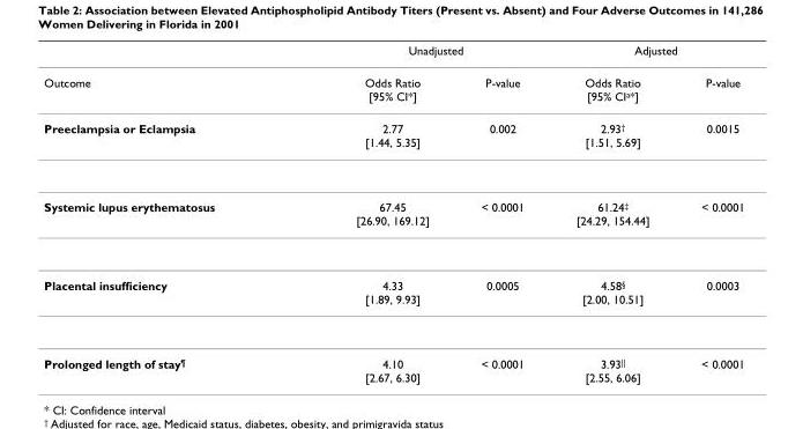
<table><thead><tr><td rowspan="2">Outcome</td><td colspan="2">Unadjusted</td><td colspan="2">Adjusted</td></tr><tr><td>Odds Ratio [95% CI*]</td><td>P-value</td><td>Odds Ratio [95% CIa*]</td><td>P-value</td></tr></thead><tbody><tr><td>Preeclampsia or Eclampsia</td><td>2.77 [1.44, 5.35]</td><td>0.002</td><td>2.93† [1.51, 5.69]</td><td>0.0015</td></tr><tr><td>Systemic lupus erythematosus</td><td>67.45 [26.90, 169.12]</td><td>&lt; 0.0001</td><td>61.24‡ [24.29, 154.44]</td><td>&lt; 0.0001</td></tr><tr><td>Placental insufficiency</td><td>4.33 [1.89, 9.93]</td><td>0.0005</td><td>4.58§ [2.00, 10.51]</td><td>0.0003</td></tr><tr><td>Prolonged length of stay¶</td><td>4.10 [2.67, 6.30]</td><td>&lt; 0.0001</td><td>3.93|| [2.55, 6.06]</td><td>&lt; 0.0001</td></tr></tbody></table>